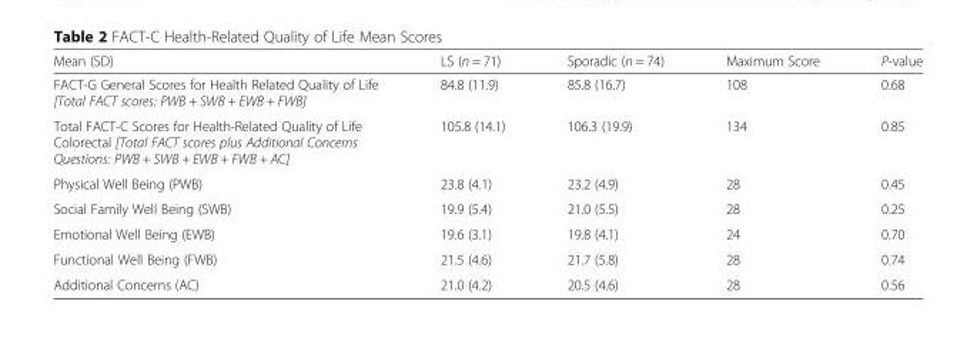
<table><thead><tr><td>Mean (SD)</td><td>LS (n = 71)</td><td>Sporadic (n = 74)</td><td>Maximum Score</td><td>P-value</td></tr></thead><tbody><tr><td>FACT-G General Scores for Health Related Quality of Life [Total FACT scores: PWB + SWB + EWB + FWB]</td><td>84.8 (11.9)</td><td>85.8 (16.7)</td><td>108</td><td>0.68</td></tr><tr><td>Total FACT-C Scores for Health-Related Quality of Life Colorectal [Total FACT scores plus Additional Concerns Questions: PWB + SWB + EWB + FWB + AC]</td><td>105.8 (14.1)</td><td>106.3 (19.9)</td><td>134</td><td>0.85</td></tr><tr><td>Physical Well Being (PWB)</td><td>23.8 (4.1)</td><td>23.2 (4.9)</td><td>28</td><td>0.45</td></tr><tr><td>Social Family Well Being (SWB)</td><td>19.9 (5.4)</td><td>21.0 (5.5)</td><td>28</td><td>0.25</td></tr><tr><td>Emotional Well Being (EWB)</td><td>19.6 (3.1)</td><td>19.8 (4.1)</td><td>24</td><td>0.70</td></tr><tr><td>Functional Well Being (FWB)</td><td>21.5 (4.6)</td><td>21.7 (5.8)</td><td>28</td><td>0.74</td></tr><tr><td>Additional Concerns (AC)</td><td>21.0 (4.2)</td><td>20.5 (4.6)</td><td>28</td><td>0.56</td></tr></tbody></table>